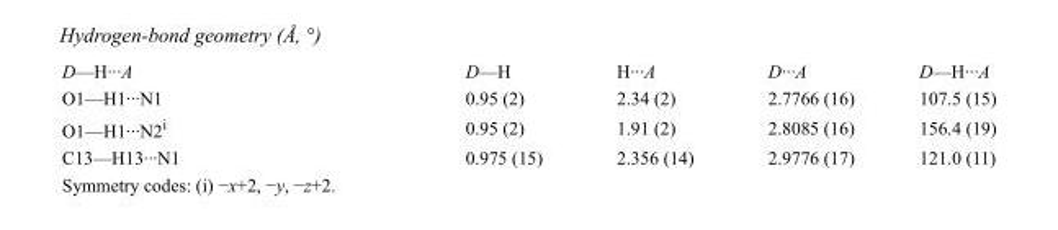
<table><tbody><tr><td>D—H···A</td><td>D—H</td><td>H···A</td><td>D···A</td><td>D—H···A</td></tr><tr><td>O1—H1···N1</td><td>0.95 (2)</td><td>2.34 (2)</td><td>2.7766 (16)</td><td>107.5 (15)</td></tr><tr><td>O1—H1···N2<sup>i</sup></td><td>0.95 (2)</td><td>1.91 (2)</td><td>2.8085 (16)</td><td>156.4 (19)</td></tr><tr><td>C13—H13···N1</td><td>0.975 (15)</td><td>2.356 (14)</td><td>2.9776 (17)</td><td>121.0 (11)</td></tr></tbody></table>